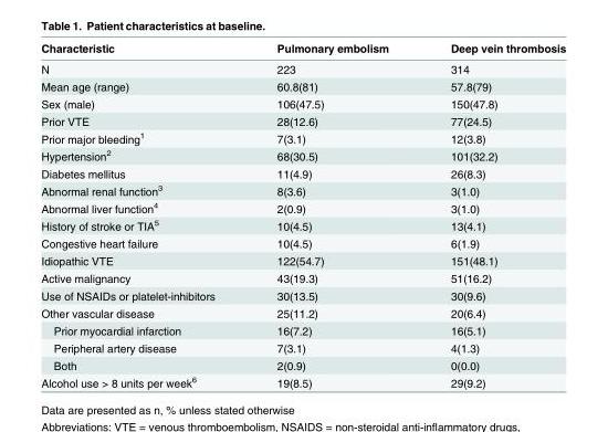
<table><thead><tr><td>Characteristic</td><td>Pulmonary embolism</td><td>Deep vein thrombosis</td></tr></thead><tbody><tr><td>N</td><td>223</td><td>314</td></tr><tr><td>Mean age (range)</td><td>60.8(81)</td><td>57.8(79)</td></tr><tr><td>Sex (male)</td><td>106(47.5)</td><td>150(47.8)</td></tr><tr><td>Prior VTE</td><td>28(12.6)</td><td>77(24.5)</td></tr><tr><td>Prior major bleeding<sup>1</sup></td><td>7(3.1)</td><td>12(3.8)</td></tr><tr><td>Hypertension<sup>2</sup></td><td>68(30.5)</td><td>101(32.2)</td></tr><tr><td>Diabetes mellitus</td><td>11(4.9)</td><td>26(8.3)</td></tr><tr><td>Abnormal renal function<sup>3</sup></td><td>8(3.6)</td><td>3(1.0)</td></tr><tr><td>Abnormal liver function<sup>4</sup></td><td>2(0.9)</td><td>3(1.0)</td></tr><tr><td>History of stroke or TIA<sup>5</sup></td><td>10(4.5)</td><td>13(4.1)</td></tr><tr><td>Congestive heart failure</td><td>10(4.5)</td><td>6(1.9)</td></tr><tr><td>Idiopathic VTE</td><td>122(54.7)</td><td>151(48.1)</td></tr><tr><td>Active malignancy</td><td>43(19.3)</td><td>51(16.2)</td></tr><tr><td>Use of NSAIDs or platelet-inhibitors</td><td>30(13.5)</td><td>30(9.6)</td></tr><tr><td>Other vascular disease</td><td>25(11.2)</td><td>20(6.4)</td></tr><tr><td>Prior myocardial infarction</td><td>16(7.2)</td><td>16(5.1)</td></tr><tr><td>Peripheral artery disease</td><td>7(3.1)</td><td>4(1.3)</td></tr><tr><td>Both</td><td>2(0.9)</td><td>0(0.0)</td></tr><tr><td>Alcohol use &gt; 8 units per week<sup>6</sup></td><td>19(8.5)</td><td>29(9.2)</td></tr></tbody></table>